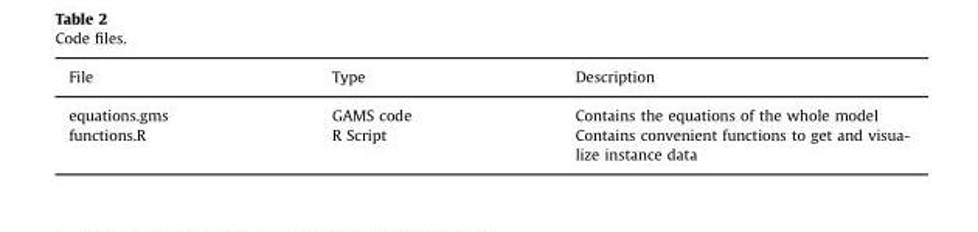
<table><thead><tr><td>File</td><td>Type</td><td>Description</td></tr></thead><tbody><tr><td>equations.gms</td><td>GAMS code</td><td>Contains the equations of the whole model</td></tr><tr><td>functions.R</td><td>R Script</td><td>Contains convenient functions to get and visua- lize instance data</td></tr></tbody></table>